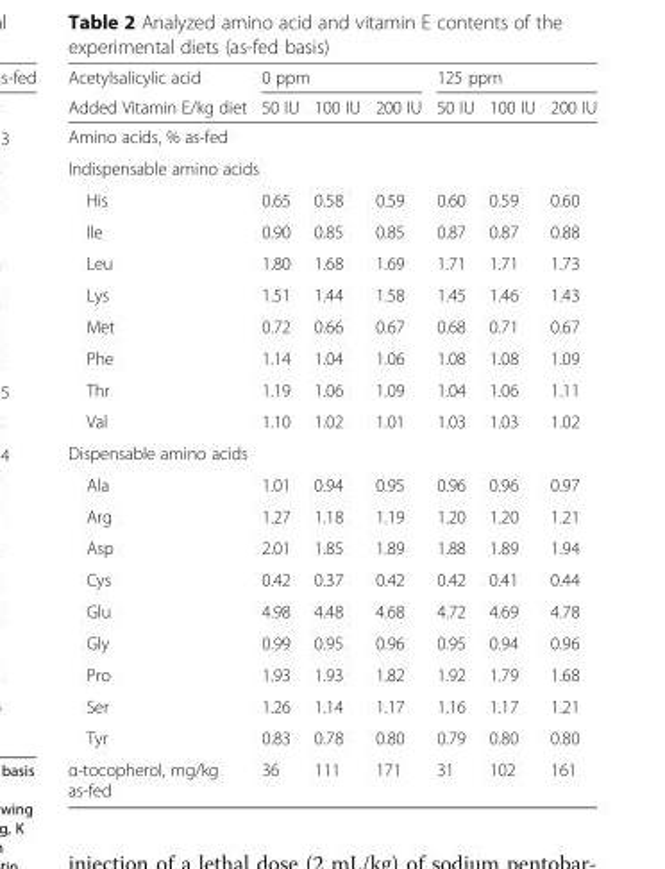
<table><thead><tr><td rowspan="2">Acetylsalicylic acid Added Vitamin E/kg diet</td><td colspan="3">0 ppm</td><td colspan="3">125 ppm</td></tr><tr><td>50 IU</td><td>100 IU</td><td>200 IU</td><td>50 IU</td><td>100 IU</td><td>200 IU</td></tr></thead><tbody><tr><td colspan="7">Amino acids, % as-fed</td></tr><tr><td colspan="7">Indispensable amino acids</td></tr><tr><td>His</td><td>0.65</td><td>0.58</td><td>0.59</td><td>0.60</td><td>0.59</td><td>0.60</td></tr><tr><td>Ile</td><td>0.90</td><td>0.85</td><td>0.85</td><td>0.87</td><td>0.87</td><td>0.88</td></tr><tr><td>Leu</td><td>1.80</td><td>1.68</td><td>1.69</td><td>1.71</td><td>1.71</td><td>1.73</td></tr><tr><td>Lys</td><td>1.51</td><td>1.44</td><td>1.58</td><td>1.45</td><td>1.46</td><td>1.43</td></tr><tr><td>Met</td><td>0.72</td><td>0.66</td><td>0.67</td><td>0.68</td><td>0.71</td><td>0.67</td></tr><tr><td>Phe</td><td>1.14</td><td>1.04</td><td>1.06</td><td>1.08</td><td>1.08</td><td>1.09</td></tr><tr><td>Thr</td><td>1.19</td><td>1.06</td><td>1.09</td><td>1.04</td><td>1.06</td><td>1.11</td></tr><tr><td>Val</td><td>1.10</td><td>1.02</td><td>1.01</td><td>1.03</td><td>1.03</td><td>1.02</td></tr><tr><td colspan="7">Dispensable amino acids</td></tr><tr><td>Ala</td><td>1.01</td><td>0.94</td><td>0.95</td><td>0.96</td><td>0.96</td><td>0.97</td></tr><tr><td>Arg</td><td>1.27</td><td>1.18</td><td>1.19</td><td>1.20</td><td>1.20</td><td>1.21</td></tr><tr><td>Asp</td><td>2.01</td><td>1.85</td><td>1.89</td><td>1.88</td><td>1.89</td><td>1.94</td></tr><tr><td>Cys</td><td>0.42</td><td>0.37</td><td>0.42</td><td>0.42</td><td>0.41</td><td>0.44</td></tr><tr><td>Glu</td><td>4.98</td><td>4.48</td><td>4.68</td><td>4.72</td><td>4.69</td><td>4.78</td></tr><tr><td>Gly</td><td>0.99</td><td>0.95</td><td>0.96</td><td>0.95</td><td>0.94</td><td>0.96</td></tr><tr><td>Pro</td><td>1.93</td><td>1.93</td><td>1.82</td><td>1.92</td><td>1.79</td><td>1.68</td></tr><tr><td>Ser</td><td>1.26</td><td>1.14</td><td>1.17</td><td>1.16</td><td>1.17</td><td>1.21</td></tr><tr><td>Tyr</td><td>0.83</td><td>0.78</td><td>0.80</td><td>0.79</td><td>0.80</td><td>0.80</td></tr><tr><td>α-tocopherol, mg/kg as-fed</td><td>36</td><td>111</td><td>171</td><td>31</td><td>102</td><td>161</td></tr></tbody></table>